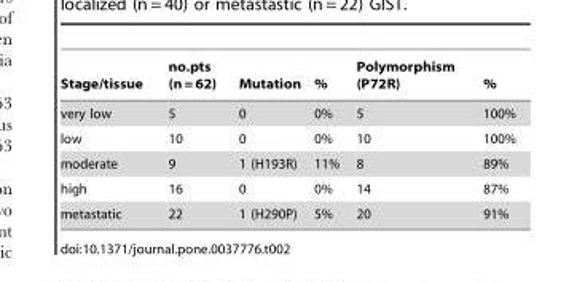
<table><thead><tr><td>Stage/tissue</td><td>no.pts (n = 62)</td><td>Mutation</td><td>%</td><td>Polymorphism (P72R)</td><td>%</td></tr></thead><tbody><tr><td>very low</td><td>5</td><td>0</td><td>0%</td><td>5</td><td>100%</td></tr><tr><td>low</td><td>10</td><td>0</td><td>0%</td><td>10</td><td>100%</td></tr><tr><td>moderate</td><td>9</td><td>1 (H193R)</td><td>11%</td><td>8</td><td>89%</td></tr><tr><td>high</td><td>16</td><td>0</td><td>0%</td><td>14</td><td>87%</td></tr><tr><td>metastatic</td><td>22</td><td>1 (H290P)</td><td>5%</td><td>20</td><td>91%</td></tr></tbody></table>